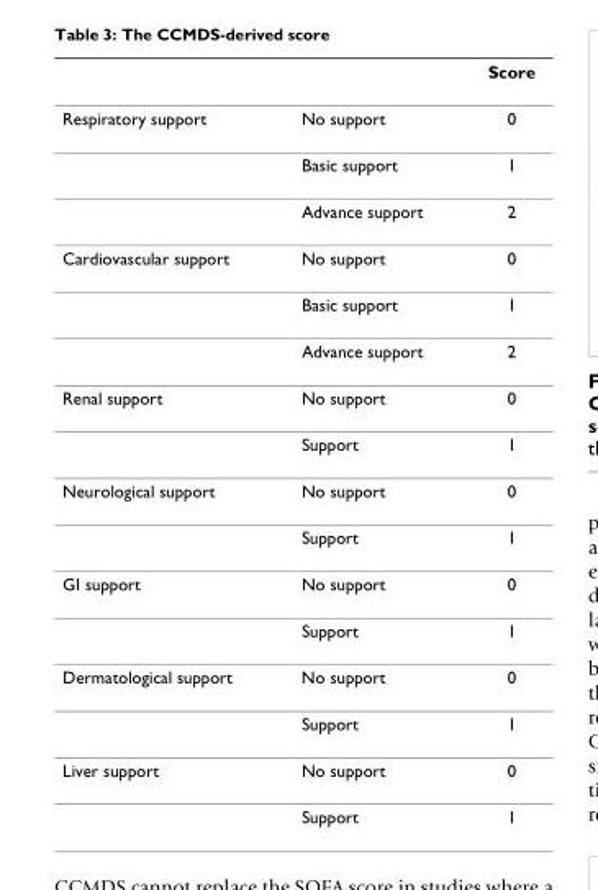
<table><thead><tr><td></td><td></td><td>Score</td></tr></thead><tbody><tr><td rowspan="3">Respiratory support</td><td>No support</td><td>0</td></tr><tr><td>Basic support</td><td>1</td></tr><tr><td>Advance support</td><td>2</td></tr><tr><td rowspan="3">Cardiovascular support</td><td>No support</td><td>0</td></tr><tr><td>Basic support</td><td>1</td></tr><tr><td>Advance support</td><td>2</td></tr><tr><td rowspan="2">Renal support</td><td>No support</td><td>0</td></tr><tr><td>Support</td><td>1</td></tr><tr><td rowspan="2">Neurological support</td><td>No support</td><td>0</td></tr><tr><td>Support</td><td>1</td></tr><tr><td rowspan="2">GI support</td><td>No support</td><td>0</td></tr><tr><td>Support</td><td>1</td></tr><tr><td rowspan="2">Dermatological support</td><td>No support</td><td>0</td></tr><tr><td>Support</td><td>1</td></tr><tr><td rowspan="2">Liver support</td><td>No support</td><td>0</td></tr><tr><td>Support</td><td>1</td></tr></tbody></table>